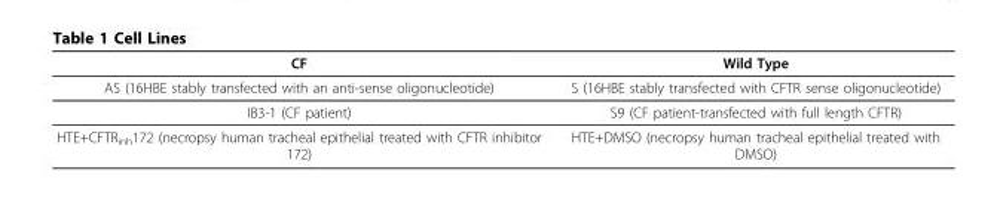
<table><thead><tr><td>CF</td><td>Wild Type</td></tr></thead><tbody><tr><td>AS (16HBE stably transfected with an anti-sense oligonucleotide)</td><td>S (16HBE stably transfected with CFTR sense oligonucleotide)</td></tr><tr><td>IB3-1 (CF patient)</td><td>S9 (CF patient-transfected with full length CFTR)</td></tr><tr><td>HTE+CFTR<sub>inh</sub>172 (necropsy human tracheal epithelial treated with CFTR inhibitor 172)</td><td>HTE+DMSO (necropsy human tracheal epithelial treated with DMSO)</td></tr></tbody></table>